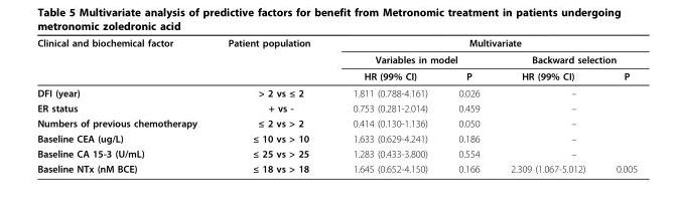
<table><thead><tr><td rowspan="3">Clinical and biochemical factor</td><td rowspan="3">Patient population</td><td colspan="4">Multivariate</td></tr><tr><td colspan="2">Variables in model</td><td colspan="2">Backward selection</td></tr><tr><td>HR (99% CI)</td><td>P</td><td>HR (99% CI)</td><td>P</td></tr></thead><tbody><tr><td>DFI (year)</td><td>&gt; 2 vs ≤ 2</td><td>1.811 (0.788-4.161)</td><td>0.026</td><td colspan="2">–</td></tr><tr><td>ER status</td><td>+ vs -</td><td>0.753 (0.281-2.014)</td><td>0.459</td><td colspan="2">–</td></tr><tr><td>Numbers of previous chemotherapy</td><td>≤ 2 vs &gt; 2</td><td>0.414 (0.130-1.136)</td><td>0.050</td><td colspan="2">–</td></tr><tr><td>Baseline CEA (ug/L)</td><td>≤ 10 vs &gt; 10</td><td>1.633 (0.629-4.241)</td><td>0.186</td><td colspan="2">–</td></tr><tr><td>Baseline CA 15-3 (U/mL)</td><td>≤ 25 vs &gt; 25</td><td>1.283 (0.433-3.800)</td><td>0.554</td><td colspan="2">–</td></tr><tr><td>Baseline NTx (nM BCE)</td><td>≤ 18 vs &gt; 18</td><td>1.645 (0.652-4.150)</td><td>0.166</td><td>2.309 (1.067-5.012)</td><td>0.005</td></tr></tbody></table>